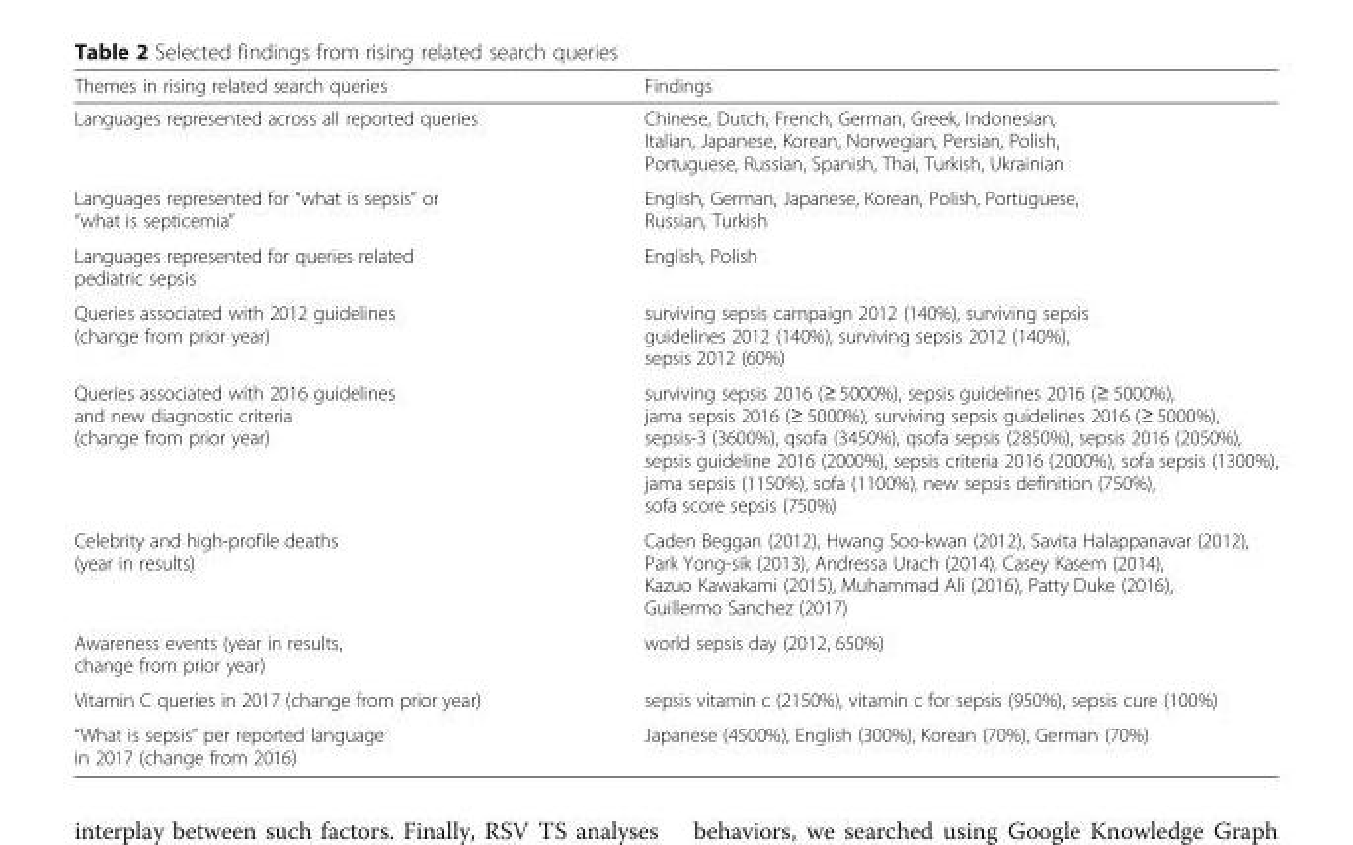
<table><thead><tr><td>Themes in rising related search queries</td><td>Findings</td></tr></thead><tbody><tr><td>Languages represented across all reported queries</td><td>Chinese, Dutch, French, German, Greek, Indonesian, Italian, Japanese, Korean, Norwegian, Persian, Polish, Portuguese, Russian, Spanish, Thai, Turkish, Ukrainian</td></tr><tr><td>Languages represented for “what is sepsis” or “what is septicemia”</td><td>English, German, Japanese, Korean, Polish, Portuguese, Russian, Turkish</td></tr><tr><td>Languages represented for queries related pediatric sepsis</td><td>English, Polish</td></tr><tr><td>Queries associated with 2012 guidelines (change from prior year)</td><td>surviving sepsis campaign 2012 (140%), surviving sepsis guidelines 2012 (140%), surviving sepsis 2012 (140%), sepsis 2012 (60%)</td></tr><tr><td>Queries associated with 2016 guidelines and new diagnostic criteria (change from prior year)</td><td>surviving sepsis 2016 (≥ 5000%), sepsis guidelines 2016 (≥ 5000%), jama sepsis 2016 (≥ 5000%), surviving sepsis guidelines 2016 (≥ 5000%), sepsis-3 (3600%), qsofa (3450%), qsofa sepsis (2850%), sepsis 2016 (2050%), sepsis guideline 2016 (2000%), sepsis criteria 2016 (2000%), sofa sepsis (1300%), jama sepsis (1150%), sofa (1100%), new sepsis definition (750%), sofa score sepsis (750%)</td></tr><tr><td>Celebrity and high-profile deaths (year in results)</td><td>Caden Beggan (2012), Hwang Soo-kwan (2012), Savita Halappanavar (2012), Park Yong-sik (2013), Andressa Urach (2014), Casey Kasem (2014), Kazuo Kawakami (2015), Muhammad Ali (2016), Patty Duke (2016), Guillermo Sanchez (2017)</td></tr><tr><td>Awareness events (year in results, change from prior year)</td><td>world sepsis day (2012, 650%)</td></tr><tr><td>Vitamin C queries in 2017 (change from prior year)</td><td>sepsis vitamin c (2150%), vitamin c for sepsis (950%), sepsis cure (100%)</td></tr><tr><td>“What is sepsis” per reported language in 2017 (change from 2016)</td><td>Japanese (4500%), English (300%), Korean (70%), German (70%)</td></tr></tbody></table>